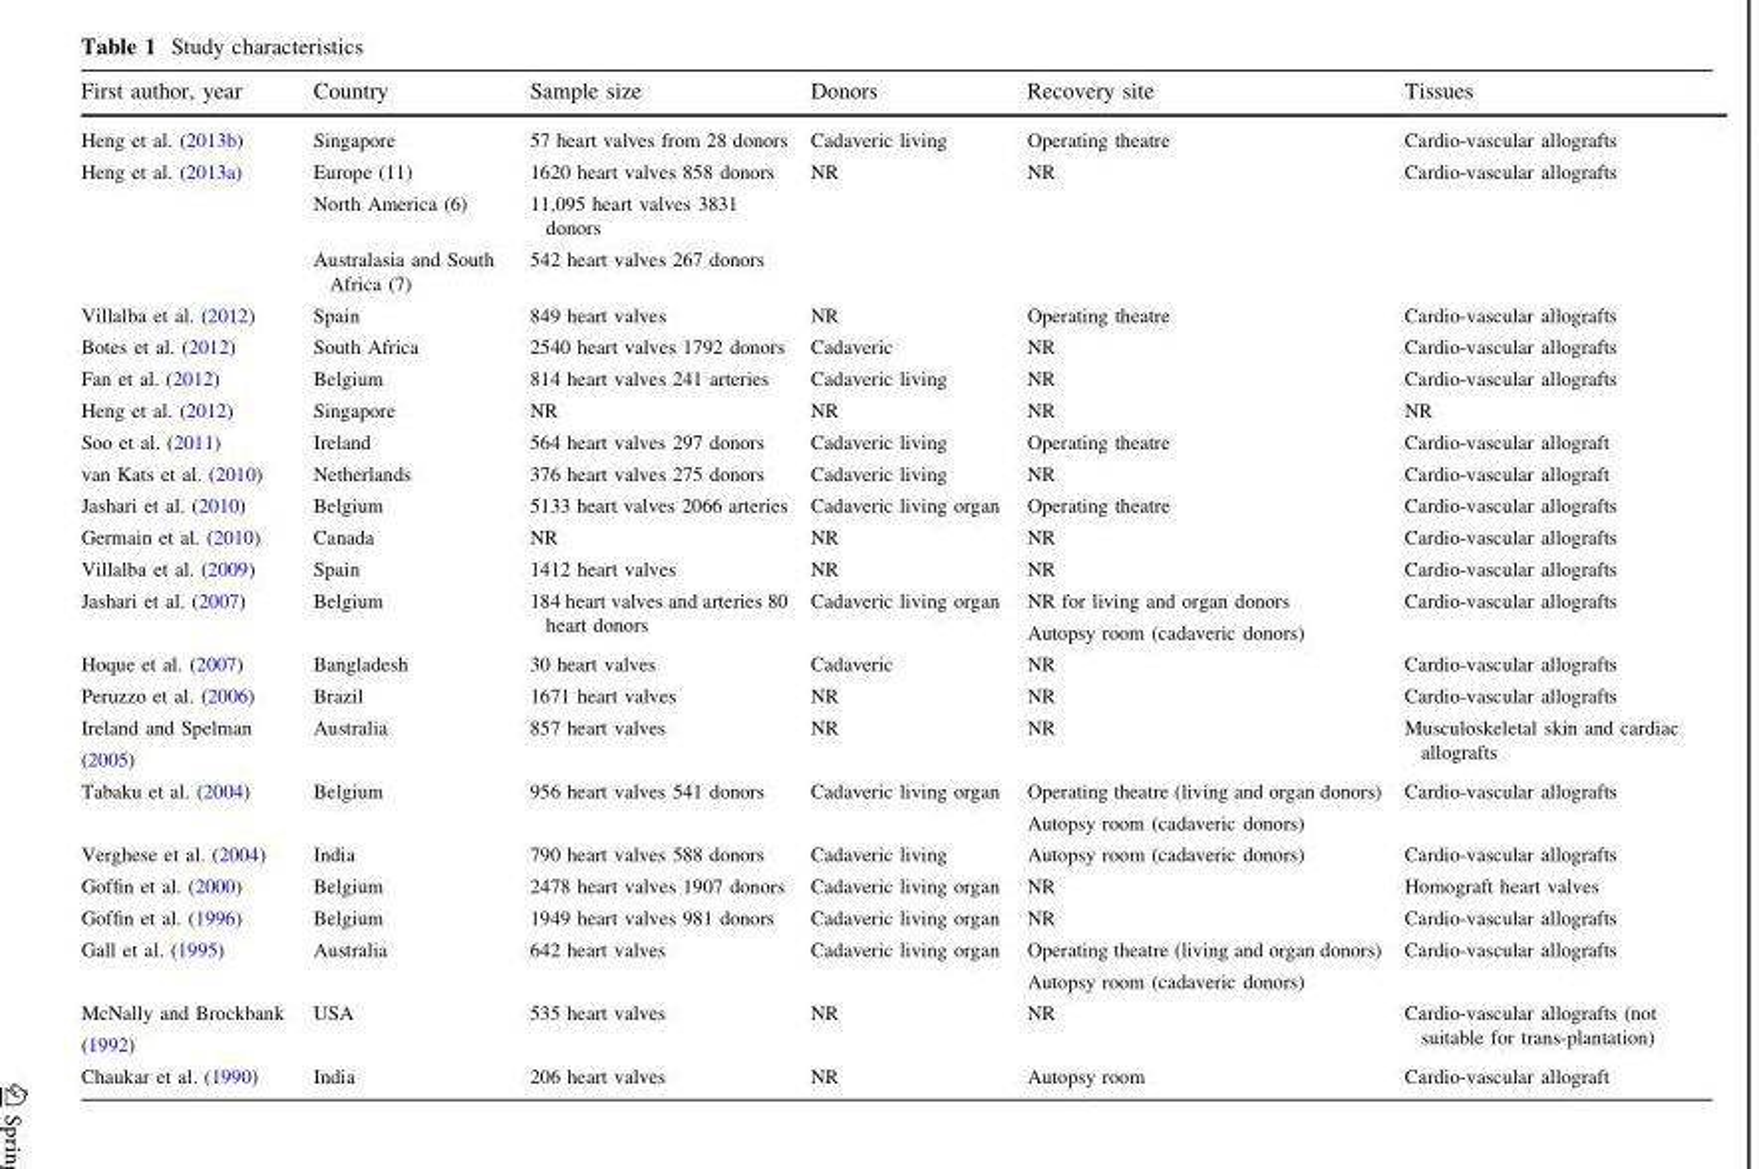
<table><thead><tr><td>First author, year</td><td>Country</td><td>Sample size</td><td>Donors</td><td>Recovery site</td><td>Tissues</td></tr></thead><tbody><tr><td>Heng et al. (2013b)</td><td>Singapore</td><td>57 heart valves from 28 donors</td><td>Cadaveric living</td><td>Operating theatre</td><td>Cardio-vascular allografts</td></tr><tr><td rowspan="3">Heng et al. (2013a)</td><td>Europe (11)</td><td>1620 heart valves 858 donors</td><td rowspan="3">NR</td><td rowspan="3">NR</td><td rowspan="3">Cardio-vascular allografts</td></tr><tr><td>North America (6)</td><td>11,095 heart valves 3831 donors</td></tr><tr><td>Australasia and South Africa (7)</td><td>542 heart valves 267 donors</td></tr><tr><td>Villalba et al. (2012)</td><td>Spain</td><td>849 heart valves</td><td>NR</td><td>Operating theatre</td><td>Cardio-vascular allografts</td></tr><tr><td>Botes et al. (2012)</td><td>South Africa</td><td>2540 heart valves 1792 donors</td><td>Cadaveric</td><td>NR</td><td>Cardio-vascular allografts</td></tr><tr><td>Fan et al. (2012)</td><td>Belgium</td><td>814 heart valves 241 arteries</td><td>Cadaveric living</td><td>NR</td><td>Cardio-vascular allografts</td></tr><tr><td>Heng et al. (2012)</td><td>Singapore</td><td>NR</td><td>NR</td><td>NR</td><td>NR</td></tr><tr><td>Soo et al. (2011)</td><td>Ireland</td><td>564 heart valves 297 donors</td><td>Cadaveric living</td><td>Operating theatre</td><td>Cardio-vascular allograft</td></tr><tr><td>van Kats et al. (2010)</td><td>Netherlands</td><td>376 heart valves 275 donors</td><td>Cadaveric living</td><td>NR</td><td>Cardio-vascular allograft</td></tr><tr><td>Jashari et al. (2010)</td><td>Belgium</td><td>5133 heart valves 2066 arteries</td><td>Cadaveric living organ</td><td>Operating theatre</td><td>Cardio-vascular allografts</td></tr><tr><td>Germain et al. (2010)</td><td>Canada</td><td>NR</td><td>NR</td><td>NR</td><td>Cardio-vascular allografts</td></tr><tr><td>Villalba et al. (2009)</td><td>Spain</td><td>1412 heart valves</td><td>NR</td><td>NR</td><td>Cardio-vascular allografts</td></tr><tr><td rowspan="2">Jashari et al. (2007)</td><td rowspan="2">Belgium</td><td rowspan="2">184 heart valves and arteries 80 heart donors</td><td rowspan="2">Cadaveric living organ</td><td>NR for living and organ donors</td><td rowspan="2">Cardio-vascular allografts</td></tr><tr><td>Autopsy room (cadaveric donors)</td></tr><tr><td>Hoque et al. (2007)</td><td>Bangladesh</td><td>30 heart valves</td><td>Cadaveric</td><td>NR</td><td>Cardio-vascular allografts</td></tr><tr><td>Peruzzo et al. (2006)</td><td>Brazil</td><td>1671 heart valves</td><td>NR</td><td>NR</td><td>Cardio-vascular allografts</td></tr><tr><td>Ireland and Spelman (2005)</td><td>Australia</td><td>857 heart valves</td><td>NR</td><td>NR</td><td>Musculoskeletal skin and cardiac allografts</td></tr><tr><td rowspan="2">Tabaku et al. (2004)</td><td rowspan="2">Belgium</td><td rowspan="2">956 heart valves 541 donors</td><td rowspan="2">Cadaveric living organ</td><td>Operating theatre (living and organ donors)</td><td rowspan="2">Cardio-vascular allografts</td></tr><tr><td>Autopsy room (cadaveric donors)</td></tr><tr><td>Verghese et al. (2004)</td><td>India</td><td>790 heart valves 588 donors</td><td>Cadaveric living</td><td>Autopsy room (cadaveric donors)</td><td>Cardio-vascular allografts</td></tr><tr><td>Goffin et al. (2000)</td><td>Belgium</td><td>2478 heart valves 1907 donors</td><td>Cadaveric living organ</td><td>NR</td><td>Homograft heart valves</td></tr><tr><td>Goffin et al. (1996)</td><td>Belgium</td><td>1949 heart valves 981 donors</td><td>Cadaveric living organ</td><td>NR</td><td>Cardio-vascular allografts</td></tr><tr><td rowspan="2">Gall et al. (1995)</td><td rowspan="2">Australia</td><td rowspan="2">642 heart valves</td><td rowspan="2">Cadaveric living organ</td><td>Operating theatre (living and organ donors)</td><td rowspan="2">Cardio-vascular allografts</td></tr><tr><td>Autopsy room (cadaveric donors)</td></tr><tr><td>McNally and Brockbank (1992)</td><td>USA</td><td>535 heart valves</td><td>NR</td><td>NR</td><td>Cardio-vascular allografts (not suitable for trans-plantation)</td></tr><tr><td>Chaukar et al. (1990)</td><td>India</td><td>206 heart valves</td><td>NR</td><td>Autopsy room</td><td>Cardio-vascular allograft</td></tr></tbody></table>